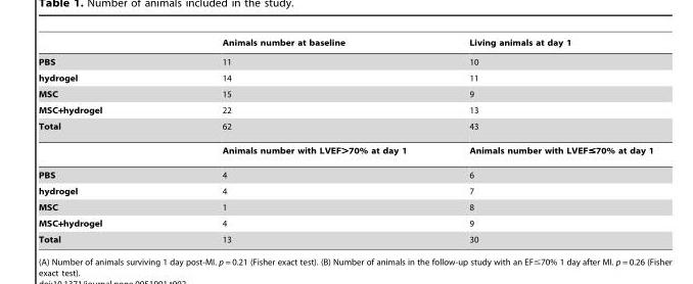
<table><thead><tr><td></td><td>Animals number at baseline</td><td>Living animals at day 1</td></tr></thead><tbody><tr><td>PBS</td><td>11</td><td>10</td></tr><tr><td>hydrogel</td><td>14</td><td>11</td></tr><tr><td>MSC</td><td>15</td><td>9</td></tr><tr><td>MSC+hydrogel</td><td>22</td><td>13</td></tr><tr><td rowspan="2">Total</td><td>62</td><td>43</td></tr><tr><td>Animals number with LVEF&gt;70% at day 1</td><td>Animals number with LVEF≤70% at day 1</td></tr><tr><td>PBS</td><td>4</td><td>6</td></tr><tr><td>hydrogel</td><td>4</td><td>7</td></tr><tr><td>MSC</td><td>1</td><td>8</td></tr><tr><td>MSC+hydrogel</td><td>4</td><td>9</td></tr><tr><td>Total</td><td>13</td><td>30</td></tr></tbody></table>